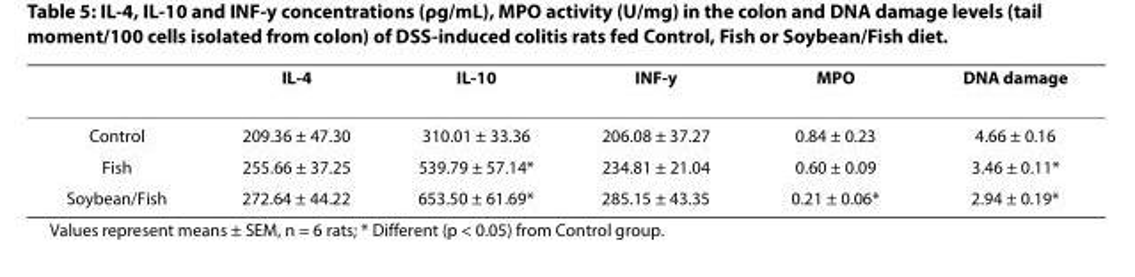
<table><thead><tr><td></td><td>IL-4</td><td>IL-10</td><td>INF-y</td><td>MPO</td><td>DNA damage</td></tr></thead><tbody><tr><td>Control</td><td>209.36 ± 47.30</td><td>310.01 ± 33.36</td><td>206.08 ± 37.27</td><td>0.84 ± 0.23</td><td>4.66 ± 0.16</td></tr><tr><td>Fish</td><td>255.66 ± 37.25</td><td>539.79 ± 57.14*</td><td>234.81 ± 21.04</td><td>0.60 ± 0.09</td><td>3.46 ± 0.11*</td></tr><tr><td>Soybean/Fish</td><td>272.64 ± 44.22</td><td>653.50 ± 61.69*</td><td>285.15 ± 43.35</td><td>0.21 ± 0.06*</td><td>2.94 ± 0.19*</td></tr></tbody></table>